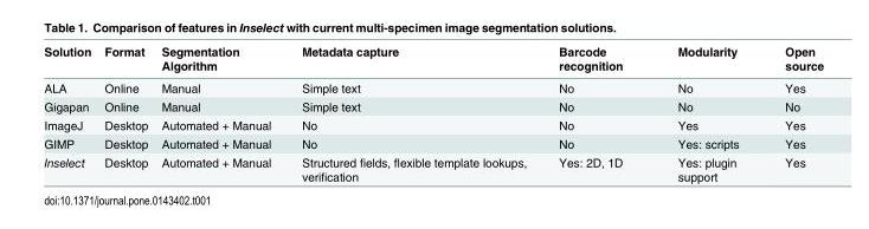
<table><thead><tr><td>Solution</td><td>Format</td><td>Segmentation Algorithm</td><td>Metadata capture</td><td>Barcode recognition</td><td>Modularity</td><td>Open source</td></tr></thead><tbody><tr><td>ALA</td><td>Online</td><td>Manual</td><td>Simple text</td><td>No</td><td>No</td><td>Yes</td></tr><tr><td>Gigapan</td><td>Online</td><td>Manual</td><td>Simple text</td><td>No</td><td>No</td><td>No</td></tr><tr><td>ImageJ</td><td>Desktop</td><td>Automated + Manual</td><td>No</td><td>No</td><td>Yes</td><td>Yes</td></tr><tr><td>GIMP</td><td>Desktop</td><td>Automated + Manual</td><td>No</td><td>No</td><td>Yes: scripts</td><td>Yes</td></tr><tr><td>Inselect</td><td>Desktop</td><td>Automated + Manual</td><td>Structured fields, flexible template lookups, verification</td><td>Yes: 2D, 1D</td><td>Yes: plugin support</td><td>Yes</td></tr></tbody></table>